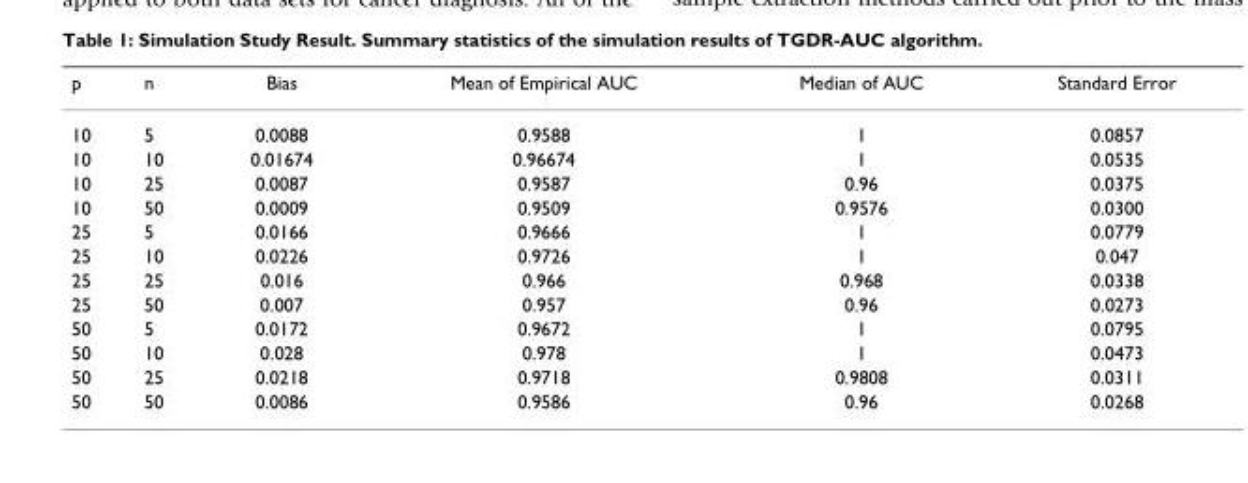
<table><thead><tr><td>p</td><td>n</td><td>Bias</td><td>Mean of Empirical AUC</td><td>Median of AUC</td><td>Standard Error</td></tr></thead><tbody><tr><td>10</td><td>5</td><td>0.0088</td><td>0.9588</td><td>1</td><td>0.0857</td></tr><tr><td>10</td><td>10</td><td>0.01674</td><td>0.96674</td><td>1</td><td>0.0535</td></tr><tr><td>10</td><td>25</td><td>0.0087</td><td>0.9587</td><td>0.96</td><td>0.0375</td></tr><tr><td>10</td><td>50</td><td>0.0009</td><td>0.9509</td><td>0.9576</td><td>0.0300</td></tr><tr><td>25</td><td>5</td><td>0.0166</td><td>0.9666</td><td>1</td><td>0.0779</td></tr><tr><td>25</td><td>10</td><td>0.0226</td><td>0.9726</td><td>1</td><td>0.047</td></tr><tr><td>25</td><td>25</td><td>0.016</td><td>0.966</td><td>0.968</td><td>0.0338</td></tr><tr><td>25</td><td>50</td><td>0.007</td><td>0.957</td><td>0.96</td><td>0.0273</td></tr><tr><td>50</td><td>5</td><td>0.0172</td><td>0.9672</td><td>1</td><td>0.0795</td></tr><tr><td>50</td><td>10</td><td>0.028</td><td>0.978</td><td>1</td><td>0.0473</td></tr><tr><td>50</td><td>25</td><td>0.0218</td><td>0.9718</td><td>0.9808</td><td>0.0311</td></tr><tr><td>50</td><td>50</td><td>0.0086</td><td>0.9586</td><td>0.96</td><td>0.0268</td></tr></tbody></table>